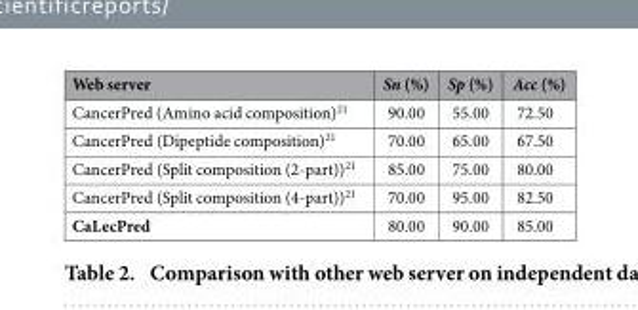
<table><thead><tr><td>Web server</td><td>Sn (%)</td><td>Sp (%)</td><td>Acc (%)</td></tr></thead><tbody><tr><td>CancerPred (Amino acid composition)<sup>21</sup></td><td>90.00</td><td>55.00</td><td>72.50</td></tr><tr><td>CancerPred (Dipeptide composition)<sup>21</sup></td><td>70.00</td><td>65.00</td><td>67.50</td></tr><tr><td>CancerPred (Split composition (2-part))<sup>21</sup></td><td>85.00</td><td>75.00</td><td>80.00</td></tr><tr><td>CancerPred (Split composition (4-part))<sup>21</sup></td><td>70.00</td><td>95.00</td><td>82.50</td></tr><tr><td>CaLecPred</td><td>80.00</td><td>90.00</td><td>85.00</td></tr></tbody></table>